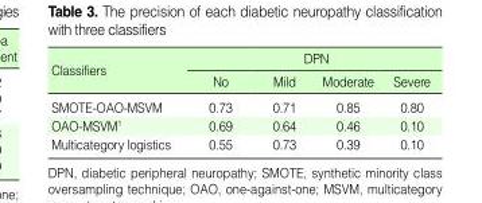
<table><thead><tr><td rowspan="2">Classifiers</td><td colspan="4">DPN</td></tr><tr><td>No</td><td>Mild</td><td>Moderate</td><td>Severe</td></tr></thead><tbody><tr><td>SMOTE-OAO-MSVM</td><td>0.73</td><td>0.71</td><td>0.85</td><td>0.80</td></tr><tr><td>OAO-MSVM<sup>1</sup></td><td>0.69</td><td>0.64</td><td>0.46</td><td>0.10</td></tr><tr><td>Multicategory logistics</td><td>0.55</td><td>0.73</td><td>0.39</td><td>0.10</td></tr></tbody></table>